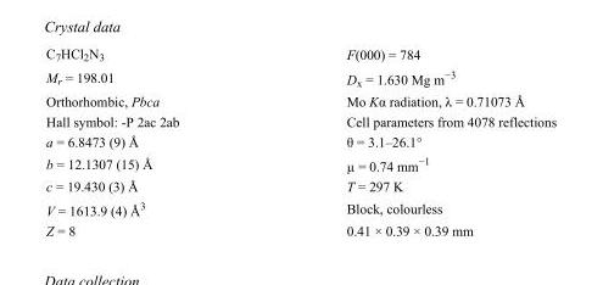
<table><tbody><tr><td>C<sub>7</sub>HCl<sub>2</sub>N<sub>3</sub></td><td>F(000) = 784</td></tr><tr><td>M<sub>r</sub> = 198.01</td><td>D<sub>x</sub> = 1.630 Mg m<sup>−3</sup></td></tr><tr><td>Orthorhombic, Pbca</td><td>Mo Kα radiation, λ = 0.71073 Å</td></tr><tr><td>Hall symbol: -P 2ac 2ab</td><td>Cell parameters from 4078 reflections</td></tr><tr><td>a = 6.8473 (9) Å</td><td>θ = 3.1–26.1°</td></tr><tr><td>b = 12.1307 (15) Å</td><td>µ = 0.74 mm<sup>−1</sup></td></tr><tr><td>c = 19.430 (3) Å</td><td>T = 297 K</td></tr><tr><td>V = 1613.9 (4) Å<sup>3</sup></td><td>Block, colourless</td></tr><tr><td>Z = 8</td><td>0.41 × 0.39 × 0.39 mm</td></tr></tbody></table>